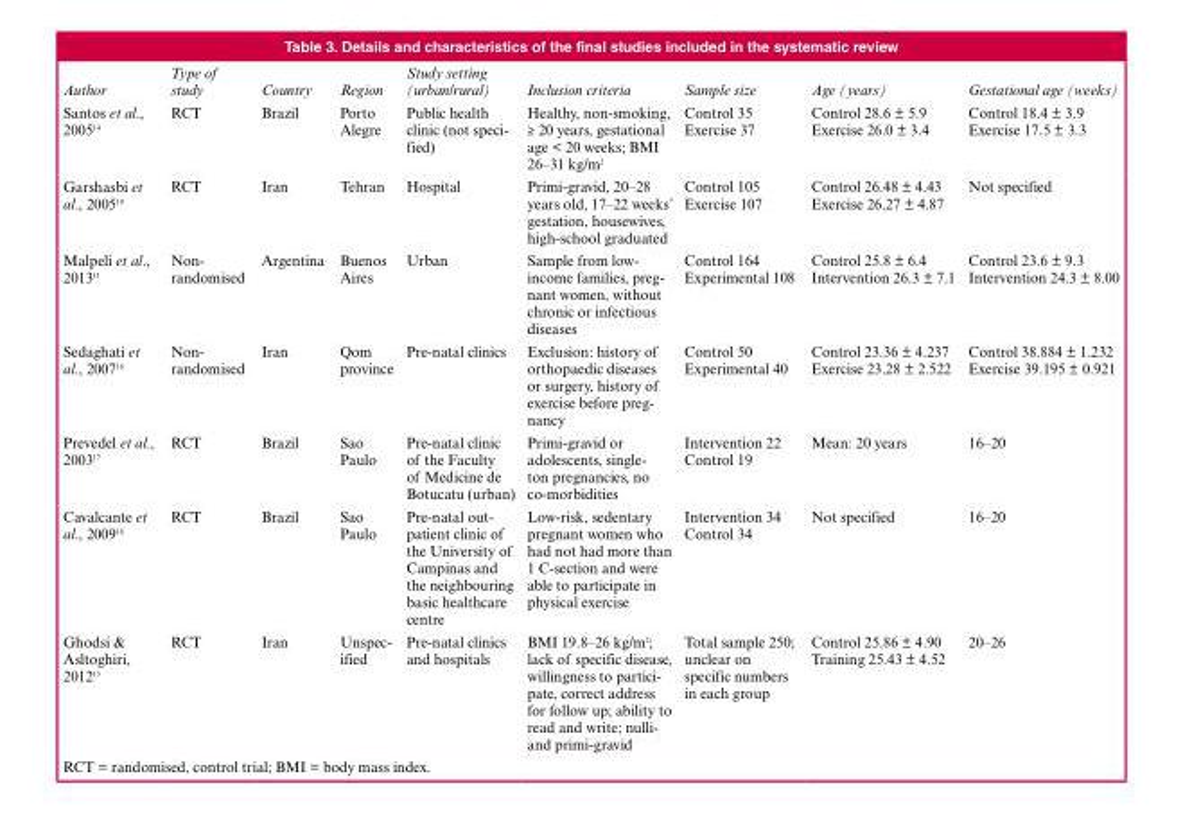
<table><thead><tr><td>Author</td><td>Type of study</td><td>Country</td><td>Region</td><td>Study setting (urban/rural)</td><td>Inclusion criteria</td><td>Sample size</td><td>Age (years)</td><td>Gestational age (weeks)</td></tr></thead><tbody><tr><td>Santos et al., 2005<sup>14</sup></td><td>RCT</td><td>Brazil</td><td>Porto Alegre</td><td>Public health clinic (not speci- fied)</td><td>Healthy, non-smoking, ≥ 20 years, gestational age &lt; 20 weeks; BMI 26–31 kg/m<sup>2</sup></td><td>Control 35 Exercise 37</td><td>Control 28.6 ± 5.9 Exercise 26.0 ± 3.4</td><td>Control 18.4 ± 3.9 Exercise 17.5 ± 3.3</td></tr><tr><td>Garshasbi et al., 2005<sup>19</sup></td><td>RCT</td><td>Iran</td><td>Tehran</td><td>Hospital</td><td>Primi-gravid, 20–28 years old, 17–22 weeks’ gestation, housewives, high-school graduated</td><td>Control 105 Exercise 107</td><td>Control 26.48 ± 4.43 Exercise 26.27 ± 4.87</td><td>Not specified</td></tr><tr><td>Malpeli et al., 2013<sup>11</sup></td><td>Non- randomised</td><td>Argentina</td><td>Buenos Aires</td><td>Urban</td><td>Sample from low- income families, preg- nant women, without chronic or infectious diseases</td><td>Control 164 Experimental 108</td><td>Control 25.8 ± 6.4 Intervention 26.3 ± 7.1</td><td>Control 23.6 ± 9.3 Intervention 24.3 ± 8.00</td></tr><tr><td>Sedaghati et al., 2007<sup>16</sup></td><td>Non- randomised</td><td>Iran</td><td>Qom province</td><td>Pre-natal clinics</td><td>Exclusion: history of orthopaedic diseases or surgery, history of exercise before preg- nancy</td><td>Control 50 Experimental 40</td><td>Control 23.36 ± 4.237 Exercise 23.28 ± 2.522</td><td>Control 38.884 ± 1.232 Exercise 39.195 ± 0.921</td></tr><tr><td>Prevedel et al., 2003<sup>17</sup></td><td>RCT</td><td>Brazil</td><td>Sao Paulo</td><td>Pre-natal clinic of the Faculty of Medicine de Botucatu (urban)</td><td>Primi-gravid or adolescents, single- ton pregnancies, no co-morbidities</td><td>Intervention 22 Control 19</td><td>Mean: 20 years</td><td>16–20</td></tr><tr><td>Cavalcante et al., 2009<sup>18</sup></td><td>RCT</td><td>Brazil</td><td>Sao Paulo</td><td>Pre-natal out- patient clinic of the University of Campinas and the neighbouring basic healthcare centre</td><td>Low-risk, sedentary pregnant women who had not had more than 1 C-section and were able to participate in physical exercise</td><td>Intervention 34 Control 34</td><td>Not specified</td><td>16–20</td></tr><tr><td>Ghodsi &amp; Asltoghiri, 2012<sup>15</sup></td><td>RCT</td><td>Iran</td><td>Unspec- ified</td><td>Pre-natal clinics and hospitals</td><td>BMI 19.8–26 kg/m2; lack of specific disease, willingness to partici- pate, correct address for follow up; ability to read and write; nulli- and primi-gravid</td><td>Total sample 250; unclear on specific numbers in each group</td><td>Control 25.86 ± 4.90 Training 25.43 ± 4.52</td><td>20–26</td></tr></tbody></table>